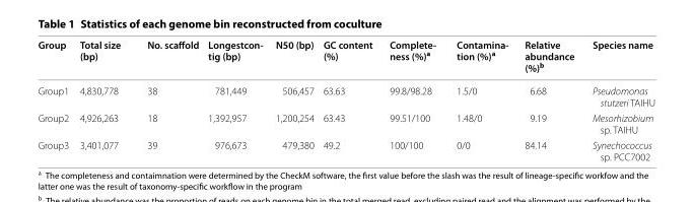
<table><thead><tr><td>Group</td><td>Total size (bp)</td><td>No. scaffold</td><td>Longestcon- tig (bp)</td><td>N50 (bp)</td><td>GC content (%)</td><td>Complete- ness (%)a</td><td>Contamina- tion (%)a</td><td>Relative abundance (%)<sup>b</sup></td><td>Species name</td></tr></thead><tbody><tr><td>Group1</td><td>4,830,778</td><td>38</td><td>781,449</td><td>506,457</td><td>63.63</td><td>99.8/98.28</td><td>1.5/0</td><td>6.68</td><td>Pseudomonas stutzeri TAIHU</td></tr><tr><td>Group2</td><td>4,926,263</td><td>18</td><td>1,392,957</td><td>1,200,254</td><td>63.43</td><td>99.51/100</td><td>1.48/0</td><td>9.19</td><td>Mesorhizobium sp. TAIHU</td></tr><tr><td>Group3</td><td>3,401,077</td><td>39</td><td>976,673</td><td>479,380</td><td>49.2</td><td>100/100</td><td>0/0</td><td>84.14</td><td>Synechococcus sp. PCC7002</td></tr></tbody></table>